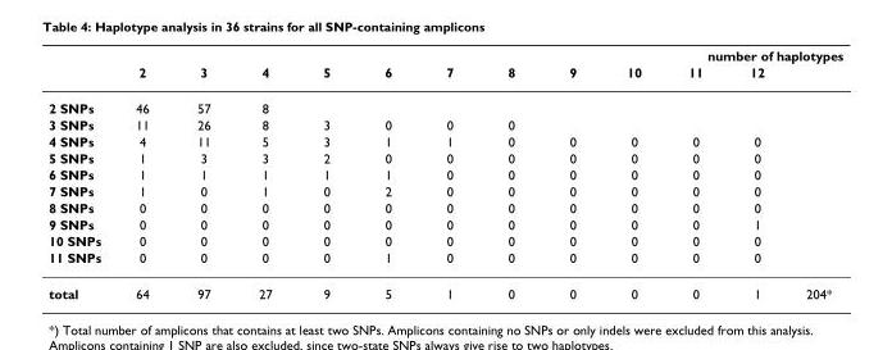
<table><thead><tr><td colspan="13">number of haplotypes</td></tr><tr><td></td><td>2</td><td>3</td><td>4</td><td>5</td><td>6</td><td>7</td><td>8</td><td>9</td><td>10</td><td>11</td><td>12</td><td></td></tr></thead><tbody><tr><td>2 SNPs</td><td>46</td><td>57</td><td>8</td><td></td><td></td><td></td><td></td><td></td><td></td><td></td><td></td><td></td></tr><tr><td>3 SNPs</td><td>11</td><td>26</td><td>8</td><td>3</td><td>0</td><td>0</td><td>0</td><td></td><td></td><td></td><td></td><td></td></tr><tr><td>4 SNPs</td><td>4</td><td>11</td><td>5</td><td>3</td><td>1</td><td>1</td><td>0</td><td>0</td><td>0</td><td>0</td><td>0</td><td></td></tr><tr><td>5 SNPs</td><td>1</td><td>3</td><td>3</td><td>2</td><td>0</td><td>0</td><td>0</td><td>0</td><td>0</td><td>0</td><td>0</td><td></td></tr><tr><td>6 SNPs</td><td>1</td><td>1</td><td>1</td><td>1</td><td>1</td><td>0</td><td>0</td><td>0</td><td>0</td><td>0</td><td>0</td><td></td></tr><tr><td>7 SNPs</td><td>1</td><td>0</td><td>1</td><td>0</td><td>2</td><td>0</td><td>0</td><td>0</td><td>0</td><td>0</td><td>0</td><td></td></tr><tr><td>8 SNPs</td><td>0</td><td>0</td><td>0</td><td>0</td><td>0</td><td>0</td><td>0</td><td>0</td><td>0</td><td>0</td><td>0</td><td></td></tr><tr><td>9 SNPs</td><td>0</td><td>0</td><td>0</td><td>0</td><td>0</td><td>0</td><td>0</td><td>0</td><td>0</td><td>0</td><td>1</td><td></td></tr><tr><td>10 SNPs</td><td>0</td><td>0</td><td>0</td><td>0</td><td>0</td><td>0</td><td>0</td><td>0</td><td>0</td><td>0</td><td>0</td><td></td></tr><tr><td>11 SNPs</td><td>0</td><td>0</td><td>0</td><td>0</td><td>1</td><td>0</td><td>0</td><td>0</td><td>0</td><td>0</td><td>0</td><td></td></tr><tr><td>total</td><td>64</td><td>97</td><td>27</td><td>9</td><td>5</td><td>1</td><td>0</td><td>0</td><td>0</td><td>0</td><td>1</td><td>204*</td></tr></tbody></table>